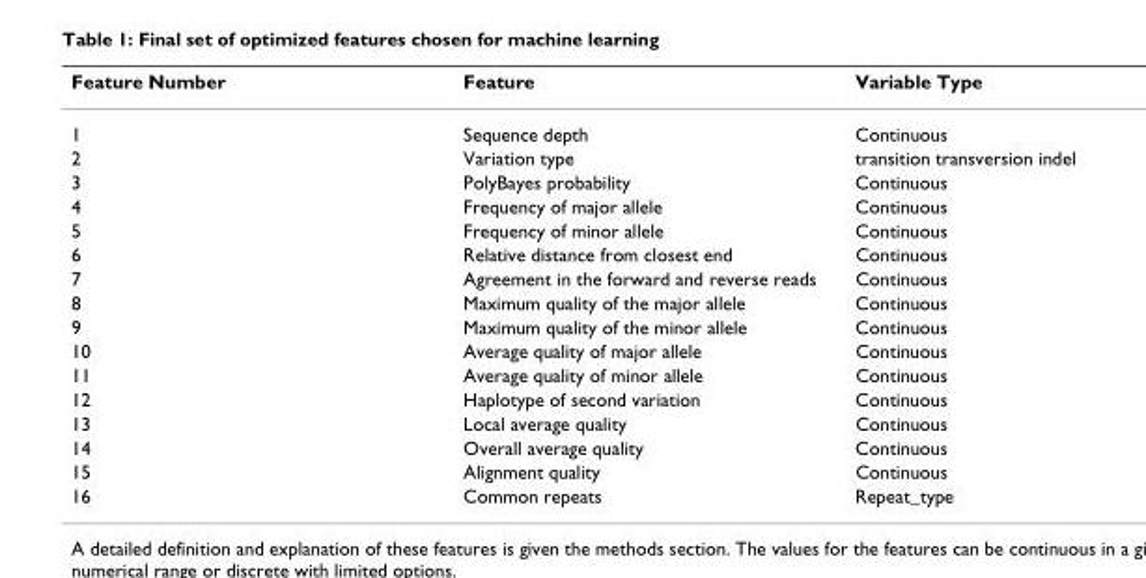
<table><thead><tr><td>Feature Number</td><td>Feature</td><td>Variable Type</td></tr></thead><tbody><tr><td>1</td><td>Sequence depth</td><td>Continuous</td></tr><tr><td>2</td><td>Variation type</td><td>transition transversion indel</td></tr><tr><td>3</td><td>PolyBayes probability</td><td>Continuous</td></tr><tr><td>4</td><td>Frequency of major allele</td><td>Continuous</td></tr><tr><td>5</td><td>Frequency of minor allele</td><td>Continuous</td></tr><tr><td>6</td><td>Relative distance from closest end</td><td>Continuous</td></tr><tr><td>7</td><td>Agreement in the forward and reverse reads</td><td>Continuous</td></tr><tr><td>8</td><td>Maximum quality of the major allele</td><td>Continuous</td></tr><tr><td>9</td><td>Maximum quality of the minor allele</td><td>Continuous</td></tr><tr><td>10</td><td>Average quality of major allele</td><td>Continuous</td></tr><tr><td>11</td><td>Average quality of minor allele</td><td>Continuous</td></tr><tr><td>12</td><td>Haplotype of second variation</td><td>Continuous</td></tr><tr><td>13</td><td>Local average quality</td><td>Continuous</td></tr><tr><td>14</td><td>Overall average quality</td><td>Continuous</td></tr><tr><td>15</td><td>Alignment quality</td><td>Continuous</td></tr><tr><td>16</td><td>Common repeats</td><td>Repeat_type</td></tr></tbody></table>